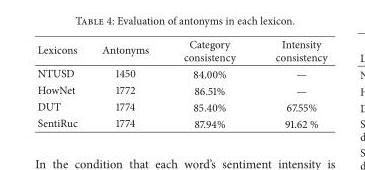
<table><thead><tr><td>Lexicons</td><td>Antonyms</td><td>Category consistency</td><td>Intensity consistency</td></tr></thead><tbody><tr><td>NTUSD</td><td>1450</td><td>84.00%</td><td>—</td></tr><tr><td>HowNet</td><td>1772</td><td>86.51%</td><td>—</td></tr><tr><td>DUT</td><td>1774</td><td>85.40%</td><td>67.55%</td></tr><tr><td>SentiRuc</td><td>1774</td><td>87.94%</td><td>91.62 %</td></tr></tbody></table>